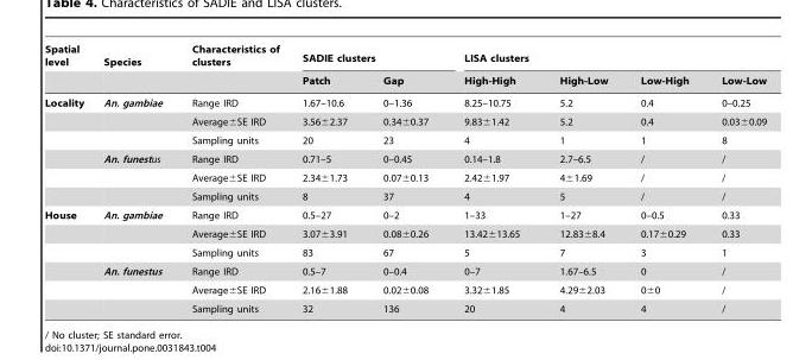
<table><thead><tr><td rowspan="2">Spatial level</td><td rowspan="2">Species</td><td rowspan="2">Characteristics of clusters</td><td colspan="2">SADIE clusters</td><td colspan="4">LISA clusters</td></tr><tr><td>Patch</td><td>Gap</td><td>High-High</td><td>High-Low</td><td>Low-High</td><td>Low-Low</td></tr></thead><tbody><tr><td rowspan="6">Locality</td><td>An. gambiae</td><td>Range IRD</td><td>1.67–10.6</td><td>0–1.36</td><td>8.25–10.75</td><td>5.2</td><td>0.4</td><td>0–0.25</td></tr><tr><td></td><td>Average±SE IRD</td><td>3.56±2.37</td><td>0.34±0.37</td><td>9.83±1.42</td><td>5.2</td><td>0.4</td><td>0.03±0.09</td></tr><tr><td></td><td>Sampling units</td><td>20</td><td>23</td><td>4</td><td>1</td><td>1</td><td>8</td></tr><tr><td>An. funestus</td><td>Range IRD</td><td>0.71–5</td><td>0–0.45</td><td>0.14–1.8</td><td>2.7–6.5</td><td>/</td><td>/</td></tr><tr><td></td><td>Average±SE IRD</td><td>2.34±1.73</td><td>0.07±0.13</td><td>2.42±1.97</td><td>4±1.69</td><td>/</td><td>/</td></tr><tr><td></td><td>Sampling units</td><td>8</td><td>37</td><td>4</td><td>5</td><td>/</td><td>/</td></tr><tr><td rowspan="6">House</td><td>An. gambiae</td><td>Range IRD</td><td>0.5–27</td><td>0–2</td><td>1–33</td><td>1–27</td><td>0–0.5</td><td>0.33</td></tr><tr><td></td><td>Average±SE IRD</td><td>3.07±3.91</td><td>0.08±0.26</td><td>13.42±13.65</td><td>12.83±8.4</td><td>0.17±0.29</td><td>0.33</td></tr><tr><td></td><td>Sampling units</td><td>83</td><td>67</td><td>5</td><td>7</td><td>3</td><td>1</td></tr><tr><td>An. funestus</td><td>Range IRD</td><td>0.5–7</td><td>0–0.4</td><td>0–7</td><td>1.67–6.5</td><td>0</td><td>/</td></tr><tr><td></td><td>Average±SE IRD</td><td>2.16±1.88</td><td>0.02±0.08</td><td>3.32±1.85</td><td>4.29±2.03</td><td>0±0</td><td>/</td></tr><tr><td></td><td>Sampling units</td><td>32</td><td>136</td><td>20</td><td>4</td><td>4</td><td>/</td></tr></tbody></table>